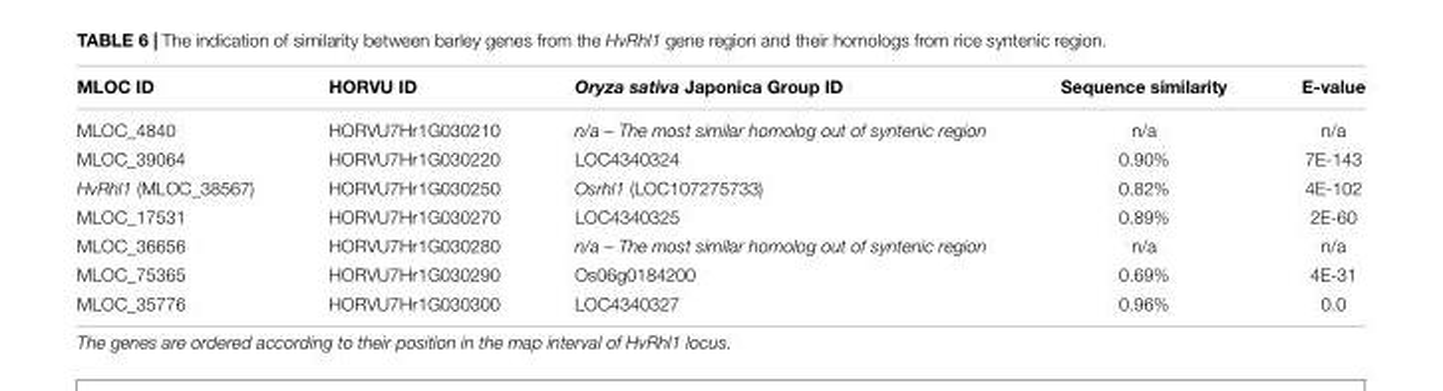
<table><thead><tr><td>MLOC ID</td><td>HORVU ID</td><td>Oryza sativa Japonica Group ID</td><td>Sequence similarity</td><td>E-value</td></tr></thead><tbody><tr><td>MLOC_4840</td><td>HORVU7Hr1G030210</td><td>n/a – The most similar homolog out of syntenic region</td><td>n/a</td><td>n/a</td></tr><tr><td>MLOC_39064</td><td>HORVU7Hr1G030220</td><td>LOC4340324</td><td>0.90%</td><td>7E-143</td></tr><tr><td>HvRhl1 (MLOC_38567)</td><td>HORVU7Hr1G030250</td><td>Osrhl1 (LOC107275733)</td><td>0.82%</td><td>4E-102</td></tr><tr><td>MLOC_17531</td><td>HORVU7Hr1G030270</td><td>LOC4340325</td><td>0.89%</td><td>2E-60</td></tr><tr><td>MLOC_36656</td><td>HORVU7Hr1G030280</td><td>n/a – The most similar homolog out of syntenic region</td><td>n/a</td><td>n/a</td></tr><tr><td>MLOC_75365</td><td>HORVU7Hr1G030290</td><td>Os06g0184200</td><td>0.69%</td><td>4E-31</td></tr><tr><td>MLOC_35776</td><td>HORVU7Hr1G030300</td><td>LOC4340327</td><td>0.96%</td><td>0.0</td></tr></tbody></table>